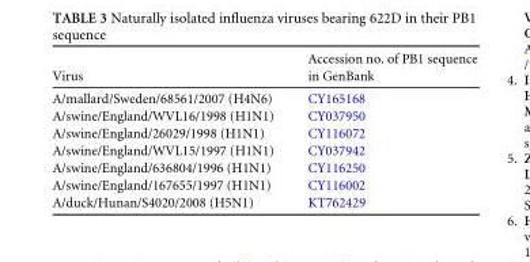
<table><thead><tr><td>Virus</td><td>Accession no. of PB1 sequence in GenBank</td></tr></thead><tbody><tr><td>A/mallard/Sweden/68561/2007 (H4N6)</td><td>CY165168</td></tr><tr><td>A/swine/England/WVL16/1998 (H1N1)</td><td>CY037950</td></tr><tr><td>A/swine/England/26029/1998 (H1N1)</td><td>CY116072</td></tr><tr><td>A/swine/England/WVL15/1997 (H1N1)</td><td>CY037942</td></tr><tr><td>A/swine/England/636804/1996 (H1N1)</td><td>CY116250</td></tr><tr><td>A/swine/England/167655/1997 (H1N1)</td><td>CY116002</td></tr><tr><td>A/duck/Hunan/S4020/2008 (H5N1)</td><td>KT762429</td></tr></tbody></table>